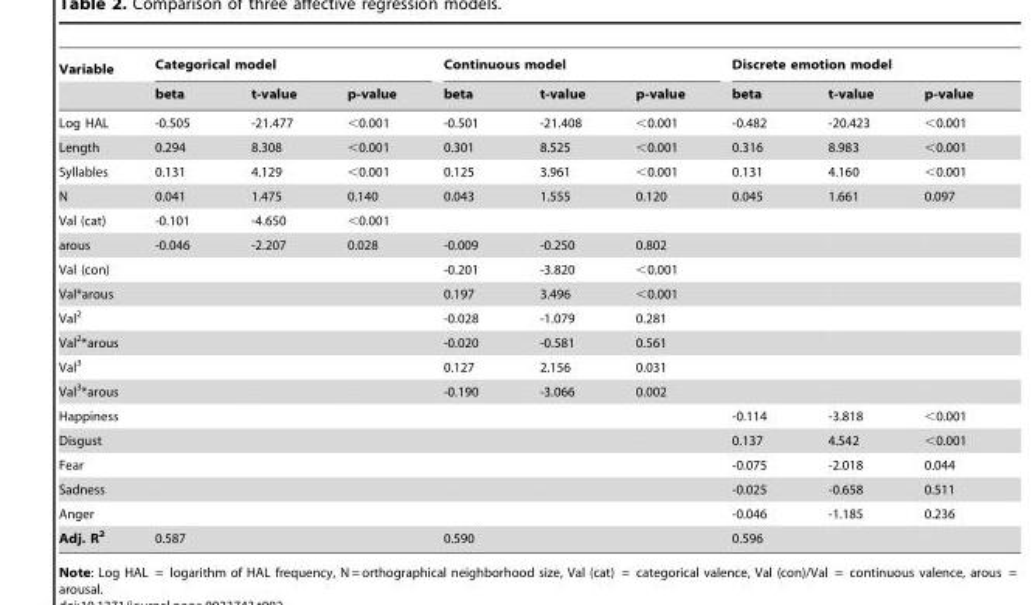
<table><thead><tr><td rowspan="2">Variable</td><td colspan="3">Categorical model</td><td colspan="3">Continuous model</td><td colspan="3">Discrete emotion model</td></tr><tr><td>beta</td><td>t-value</td><td>p-value</td><td>beta</td><td>t-value</td><td>p-value</td><td>beta</td><td>t-value</td><td>p-value</td></tr></thead><tbody><tr><td>Log HAL</td><td>-0.505</td><td>-21.477</td><td>&lt;0.001</td><td>-0.501</td><td>-21.408</td><td>&lt;0.001</td><td>-0.482</td><td>-20.423</td><td>&lt;0.001</td></tr><tr><td>Length</td><td>0.294</td><td>8.308</td><td>&lt;0.001</td><td>0.301</td><td>8.525</td><td>&lt;0.001</td><td>0.316</td><td>8.983</td><td>&lt;0.001</td></tr><tr><td>Syllables</td><td>0.131</td><td>4.129</td><td>&lt;0.001</td><td>0.125</td><td>3.961</td><td>&lt;0.001</td><td>0.131</td><td>4.160</td><td>&lt;0.001</td></tr><tr><td>N</td><td>0.041</td><td>1.475</td><td>0.140</td><td>0.043</td><td>1.555</td><td>0.120</td><td>0.045</td><td>1.661</td><td>0.097</td></tr><tr><td>Val (cat)</td><td>-0.101</td><td>-4.650</td><td>&lt;0.001</td><td></td><td></td><td></td><td></td><td></td><td></td></tr><tr><td>arous</td><td>-0.046</td><td>-2.207</td><td>0.028</td><td>-0.009</td><td>-0.250</td><td>0.802</td><td></td><td></td><td></td></tr><tr><td>Val (con)</td><td></td><td></td><td></td><td>-0.201</td><td>-3.820</td><td>&lt;0.001</td><td></td><td></td><td></td></tr><tr><td>Val*arous</td><td></td><td></td><td></td><td>0.197</td><td>3.496</td><td>&lt;0.001</td><td></td><td></td><td></td></tr><tr><td>Val<sup>2</sup></td><td></td><td></td><td></td><td>-0.028</td><td>-1.079</td><td>0.281</td><td></td><td></td><td></td></tr><tr><td>Val<sup>2</sup>*arous</td><td></td><td></td><td></td><td>-0.020</td><td>-0.581</td><td>0.561</td><td></td><td></td><td></td></tr><tr><td>Val<sup>3</sup></td><td></td><td></td><td></td><td>0.127</td><td>2.156</td><td>0.031</td><td></td><td></td><td></td></tr><tr><td>Val<sup>3</sup>*arous</td><td></td><td></td><td></td><td>-0.190</td><td>-3.066</td><td>0.002</td><td></td><td></td><td></td></tr><tr><td>Happiness</td><td></td><td></td><td></td><td></td><td></td><td></td><td>-0.114</td><td>-3.818</td><td>&lt;0.001</td></tr><tr><td>Disgust</td><td></td><td></td><td></td><td></td><td></td><td></td><td>0.137</td><td>4.542</td><td>&lt;0.001</td></tr><tr><td>Fear</td><td></td><td></td><td></td><td></td><td></td><td></td><td>-0.075</td><td>-2.018</td><td>0.044</td></tr><tr><td>Sadness</td><td></td><td></td><td></td><td></td><td></td><td></td><td>-0.025</td><td>-0.658</td><td>0.511</td></tr><tr><td>Anger</td><td></td><td></td><td></td><td></td><td></td><td></td><td>-0.046</td><td>-1.185</td><td>0.236</td></tr><tr><td>Adj. R<sup>2</sup></td><td>0.587</td><td></td><td></td><td>0.590</td><td></td><td></td><td>0.596</td><td></td><td></td></tr></tbody></table>